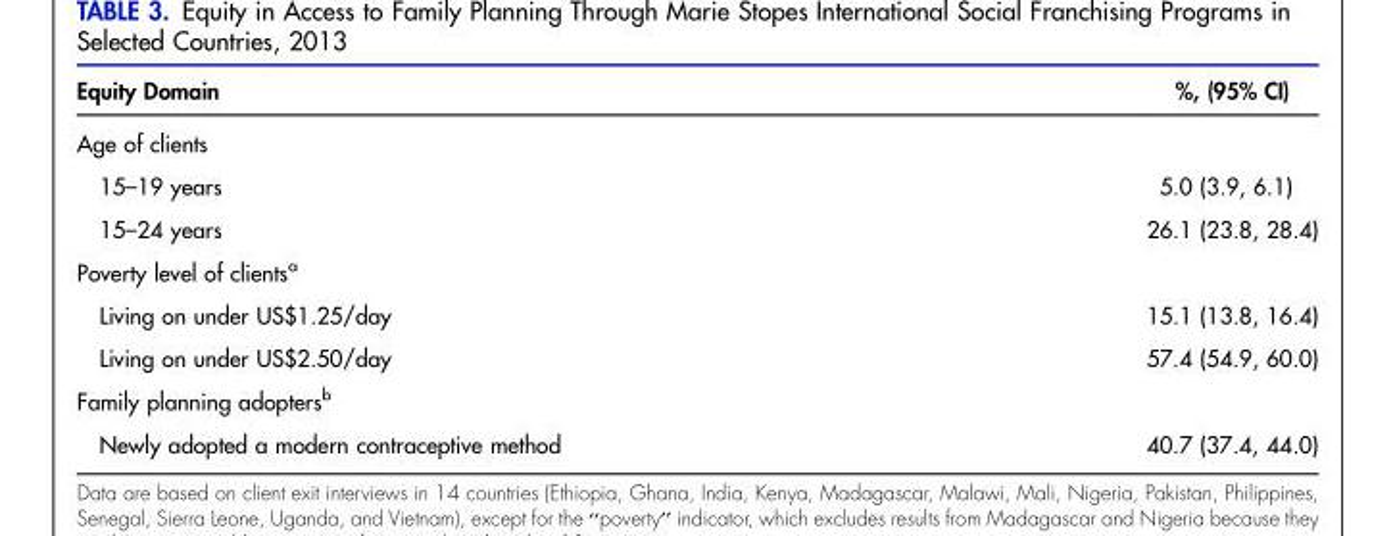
<table><thead><tr><td>Equity Domain</td><td>%, (95% CI)</td></tr></thead><tbody><tr><td colspan="2">Age of clients</td></tr><tr><td>15–19 years</td><td>5.0 (3.9, 6.1)</td></tr><tr><td>15–24 years</td><td>26.1 (23.8, 28.4)</td></tr><tr><td colspan="2">Poverty level of clients<sup>a</sup></td></tr><tr><td>Living on under US$1.25/day</td><td>15.1 (13.8, 16.4)</td></tr><tr><td>Living on under US$2.50/day</td><td>57.4 (54.9, 60.0)</td></tr><tr><td colspan="2">Family planning adopters<sup>b</sup></td></tr><tr><td>Newly adopted a modern contraceptive method</td><td>40.7 (37.4, 44.0)</td></tr></tbody></table>